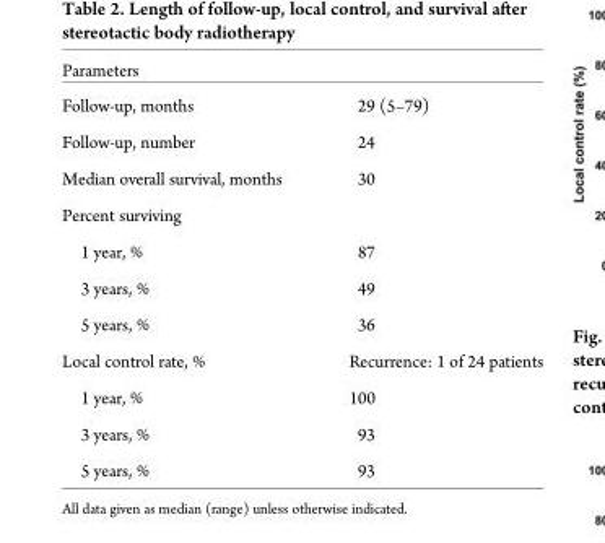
<table><thead><tr><td>Parameters</td><td></td></tr></thead><tbody><tr><td>Follow-up, months</td><td>29 (5–79)</td></tr><tr><td>Follow-up, number</td><td>24</td></tr><tr><td>Median overall survival, months</td><td>30</td></tr><tr><td colspan="2">Percent surviving</td></tr><tr><td>1 year, %</td><td>87</td></tr><tr><td>3 years, %</td><td>49</td></tr><tr><td>5 years, %</td><td>36</td></tr><tr><td>Local control rate, %</td><td>Recurrence: 1 of 24 patients</td></tr><tr><td>1 year, %</td><td>100</td></tr><tr><td>3 years, %</td><td>93</td></tr><tr><td>5 years, %</td><td>93</td></tr></tbody></table>